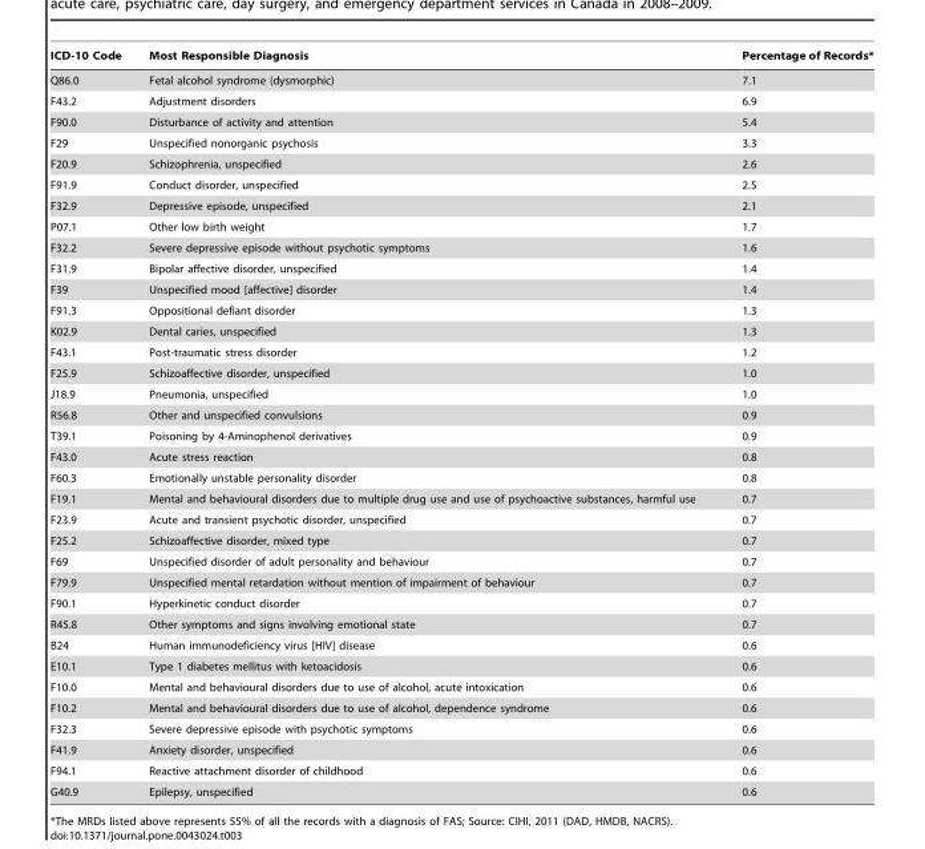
<table><thead><tr><td>ICD-10 Code</td><td>Most Responsible Diagnosis</td><td>Percentage of Records*</td></tr></thead><tbody><tr><td>Q86.0</td><td>Fetal alcohol syndrome (dysmorphic)</td><td>7.1</td></tr><tr><td>F43.2</td><td>Adjustment disorders</td><td>6.9</td></tr><tr><td>F90.0</td><td>Disturbance of activity and attention</td><td>5.4</td></tr><tr><td>F29</td><td>Unspecified nonorganic psychosis</td><td>3.3</td></tr><tr><td>F20.9</td><td>Schizophrenia, unspecified</td><td>2.6</td></tr><tr><td>F91.9</td><td>Conduct disorder, unspecified</td><td>2.5</td></tr><tr><td>F32.9</td><td>Depressive episode, unspecified</td><td>2.1</td></tr><tr><td>P07.1</td><td>Other low birth weight</td><td>1.7</td></tr><tr><td>F32.2</td><td>Severe depressive episode without psychotic symptoms</td><td>1.6</td></tr><tr><td>F31.9</td><td>Bipolar affective disorder, unspecified</td><td>1.4</td></tr><tr><td>F39</td><td>Unspecified mood [affective] disorder</td><td>1.4</td></tr><tr><td>F91.3</td><td>Oppositional defiant disorder</td><td>1.3</td></tr><tr><td>K02.9</td><td>Dental caries, unspecified</td><td>1.3</td></tr><tr><td>F43.1</td><td>Post-traumatic stress disorder</td><td>1.2</td></tr><tr><td>F25.9</td><td>Schizoaffective disorder, unspecified</td><td>1.0</td></tr><tr><td>J18.9</td><td>Pneumonia, unspecified</td><td>1.0</td></tr><tr><td>R56.8</td><td>Other and unspecified convulsions</td><td>0.9</td></tr><tr><td>T39.1</td><td>Poisoning by 4-Aminophenol derivatives</td><td>0.9</td></tr><tr><td>F43.0</td><td>Acute stress reaction</td><td>0.8</td></tr><tr><td>F60.3</td><td>Emotionally unstable personality disorder</td><td>0.8</td></tr><tr><td>F19.1</td><td>Mental and behavioural disorders due to multiple drug use and use of psychoactive substances, harmful use</td><td>0.7</td></tr><tr><td>F23.9</td><td>Acute and transient psychotic disorder, unspecified</td><td>0.7</td></tr><tr><td>F25.2</td><td>Schizoaffective disorder, mixed type</td><td>0.7</td></tr><tr><td>F69</td><td>Unspecified disorder of adult personality and behaviour</td><td>0.7</td></tr><tr><td>F79.9</td><td>Unspecified mental retardation without mention of impairment of behaviour</td><td>0.7</td></tr><tr><td>F90.1</td><td>Hyperkinetic conduct disorder</td><td>0.7</td></tr><tr><td>R45.8</td><td>Other symptoms and signs involving emotional state</td><td>0.7</td></tr><tr><td>B24</td><td>Human immunodeficiency virus [HIV] disease</td><td>0.6</td></tr><tr><td>E10.1</td><td>Type 1 diabetes mellitus with ketoacidosis</td><td>0.6</td></tr><tr><td>F10.0</td><td>Mental and behavioural disorders due to use of alcohol, acute intoxication</td><td>0.6</td></tr><tr><td>F10.2</td><td>Mental and behavioural disorders due to use of alcohol, dependence syndrome</td><td>0.6</td></tr><tr><td>F32.3</td><td>Severe depressive episode with psychotic symptoms</td><td>0.6</td></tr><tr><td>F41.9</td><td>Anxiety disorder, unspecified</td><td>0.6</td></tr><tr><td>F94.1</td><td>Reactive attachment disorder of childhood</td><td>0.6</td></tr><tr><td>G40.9</td><td>Epilepsy, unspecified</td><td>0.6</td></tr></tbody></table>